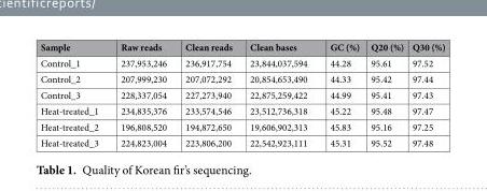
<table><thead><tr><td>Sample</td><td>Raw reads</td><td>Clean reads</td><td>Clean bases</td><td>GC (%)</td><td>Q20 (%)</td><td>Q30 (%)</td></tr></thead><tbody><tr><td>Control_1</td><td>237,953,246</td><td>236,917,754</td><td>23,844,037,594</td><td>44.28</td><td>95.61</td><td>97.52</td></tr><tr><td>Control_2</td><td>207,999,230</td><td>207,072,292</td><td>20,854,653,490</td><td>44.33</td><td>95.42</td><td>97.44</td></tr><tr><td>Control_3</td><td>228,337,054</td><td>227,273,940</td><td>22,875,259,422</td><td>44.99</td><td>95.41</td><td>97.43</td></tr><tr><td>Heat-treated_1</td><td>234,835,376</td><td>233,574,546</td><td>23,512,736,318</td><td>45.22</td><td>95.48</td><td>97.47</td></tr><tr><td>Heat-treated_2</td><td>196,808,520</td><td>194,872,650</td><td>19,606,902,313</td><td>45.83</td><td>95.16</td><td>97.25</td></tr><tr><td>Heat-treated_3</td><td>224,823,004</td><td>223,806,200</td><td>22,542,923,111</td><td>45.31</td><td>95.52</td><td>97.48</td></tr></tbody></table>